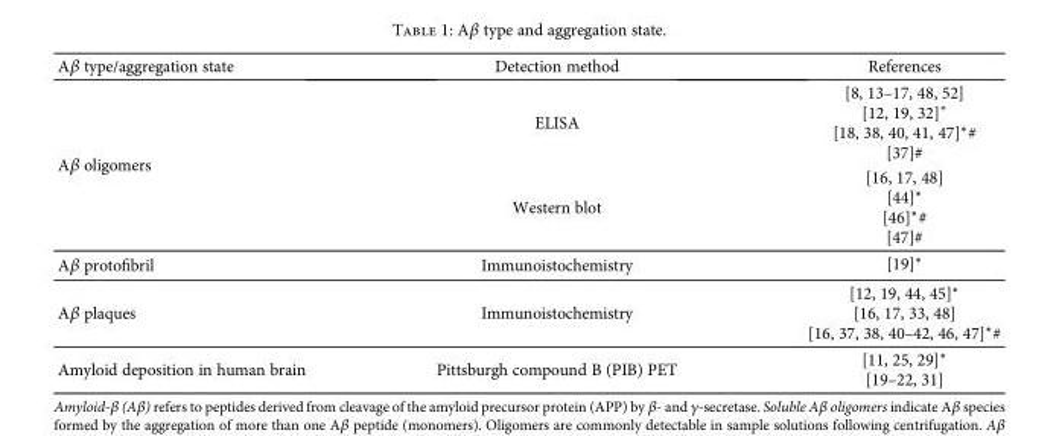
<table><thead><tr><td>Aβ type/aggregation state</td><td>Detection method</td><td>References</td></tr></thead><tbody><tr><td rowspan="2">Aβ oligomers</td><td>ELISA</td><td>[8, 13–17, 48, 52] [12, 19, 32]∗ [18, 38, 40, 41, 47]∗# [37]#</td></tr><tr><td>Western blot</td><td>[16, 17, 48] [44]∗ [46]∗# [47]#</td></tr><tr><td>Aβ protofibril</td><td>Immunoistochemistry</td><td>[19]∗</td></tr><tr><td>Aβ plaques</td><td>Immunoistochemistry</td><td>[12, 19, 44, 45]∗ [16, 17, 33, 48] [16, 37, 38, 40–42, 46, 47]∗#</td></tr><tr><td>Amyloid deposition in human brain</td><td>Pittsburgh compound B (PIB) PET</td><td>[11, 25, 29]∗</td></tr></tbody></table>